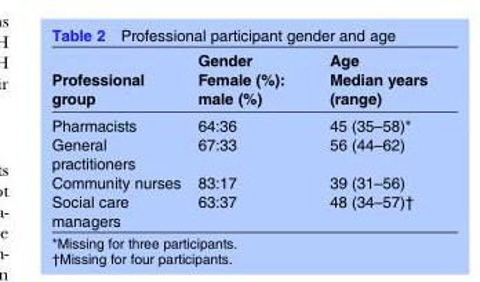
<table><thead><tr><td>Professional group</td><td>Gender Female (%): male (%)</td><td>Age Median years (range)</td></tr></thead><tbody><tr><td>Pharmacists</td><td>64:36</td><td>45 (35–58)*</td></tr><tr><td>General practitioners</td><td>67:33</td><td>56 (44–62)</td></tr><tr><td>Community nurses</td><td>83:17</td><td>39 (31–56)</td></tr><tr><td>Social care managers</td><td>63:37</td><td>48 (34–57)†</td></tr></tbody></table>